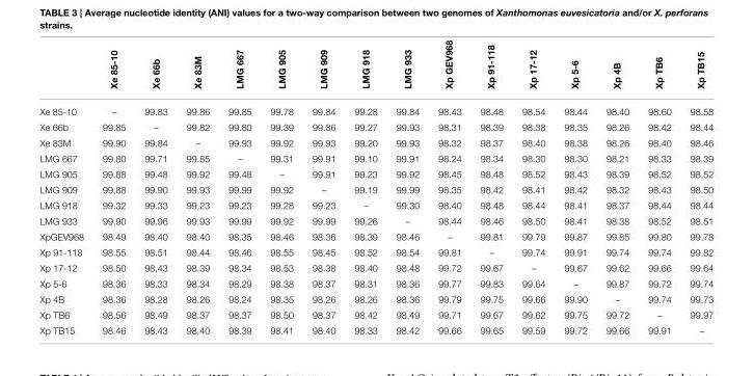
<table><thead><tr><td></td><td>Xe 85-10</td><td>Xe 66b</td><td>Xe 83M</td><td>LMG 667</td><td>LMG 905</td><td>LMG 909</td><td>LMG 918</td><td>LMG 933</td><td>Xp GEV968</td><td>Xp 91-118</td><td>Xp 17-12</td><td>Xp 5-6</td><td>Xp 4B</td><td>Xp TB6</td><td>Xp TB15</td></tr></thead><tbody><tr><td>Xe 85-10</td><td>–</td><td>99.83</td><td>99.86</td><td>99.85</td><td>99.78</td><td>99.84</td><td>99.28</td><td>99.84</td><td>98.43</td><td>98.48</td><td>98.54</td><td>98.44</td><td>98.40</td><td>98.60</td><td>98.58</td></tr><tr><td>Xe 66b</td><td>99.85</td><td>–</td><td>99.82</td><td>99.80</td><td>99.39</td><td>99.86</td><td>99.27</td><td>99.93</td><td>98.31</td><td>98.39</td><td>98.38</td><td>98.35</td><td>98.26</td><td>98.42</td><td>98.44</td></tr><tr><td>Xe 83M</td><td>99.90</td><td>99.84</td><td>–</td><td>99.93</td><td>99.92</td><td>99.93</td><td>99.20</td><td>99.93</td><td>98.32</td><td>98.37</td><td>98.40</td><td>98.38</td><td>98.26</td><td>98.40</td><td>98.46</td></tr><tr><td>LMG 667</td><td>99.80</td><td>99.71</td><td>99.85</td><td>–</td><td>99.31</td><td>99.91</td><td>99.10</td><td>99.91</td><td>98.24</td><td>98.34</td><td>98.30</td><td>98.30</td><td>98.21</td><td>98.33</td><td>98.39</td></tr><tr><td>LMG 905</td><td>99.88</td><td>99.48</td><td>99.92</td><td>99.48</td><td>–</td><td>99.91</td><td>99.23</td><td>99.92</td><td>98.45</td><td>98.48</td><td>98.52</td><td>98.43</td><td>98.39</td><td>98.52</td><td>98.52</td></tr><tr><td>LMG 909</td><td>99.88</td><td>99.90</td><td>99.93</td><td>99.99</td><td>99.92</td><td>–</td><td>99.19</td><td>99.99</td><td>98.35</td><td>98.42</td><td>98.41</td><td>98.42</td><td>98.32</td><td>98.43</td><td>98.50</td></tr><tr><td>LMG 918</td><td>99.32</td><td>99.33</td><td>99.23</td><td>99.23</td><td>99.28</td><td>99.23</td><td>–</td><td>99.30</td><td>98.40</td><td>98.48</td><td>98.44</td><td>98.41</td><td>98.37</td><td>98.44</td><td>98.44</td></tr><tr><td>LMG 933</td><td>99.90</td><td>99.96</td><td>99.93</td><td>99.99</td><td>99.92</td><td>99.99</td><td>99.26</td><td>–</td><td>98.44</td><td>98.46</td><td>98.50</td><td>98.41</td><td>98.38</td><td>98.52</td><td>98.51</td></tr><tr><td>XpGEV968</td><td>98.49</td><td>98.40</td><td>98.40</td><td>98.35</td><td>98.46</td><td>98.36</td><td>98.39</td><td>98.46</td><td>–</td><td>99.81</td><td>99.79</td><td>99.87</td><td>99.85</td><td>99.80</td><td>99.78</td></tr><tr><td>Xp 91-118</td><td>98.55</td><td>98.51</td><td>98.44</td><td>98.46</td><td>98.55</td><td>98.45</td><td>98.52</td><td>98.54</td><td>99.81</td><td>–</td><td>99.74</td><td>99.91</td><td>99.74</td><td>99.74</td><td>99.82</td></tr><tr><td>Xp 17-12</td><td>98.50</td><td>98.43</td><td>98.39</td><td>98.34</td><td>98.53</td><td>98.38</td><td>98.40</td><td>98.48</td><td>99.72</td><td>99.67</td><td>–</td><td>99.67</td><td>99.62</td><td>99.66</td><td>99.64</td></tr><tr><td>Xp 5-6</td><td>98.36</td><td>98.33</td><td>98.34</td><td>98.29</td><td>98.38</td><td>98.37</td><td>98.31</td><td>98.36</td><td>99.77</td><td>99.83</td><td>99.64</td><td>–</td><td>99.87</td><td>99.72</td><td>99.74</td></tr><tr><td>Xp 4B</td><td>98.36</td><td>98.28</td><td>98.26</td><td>98.24</td><td>98.35</td><td>98.26</td><td>98.26</td><td>98.36</td><td>99.79</td><td>99.75</td><td>99.66</td><td>99.90</td><td>–</td><td>99.74</td><td>99.73</td></tr><tr><td>Xp TB6</td><td>98.56</td><td>98.49</td><td>98.37</td><td>98.37</td><td>98.50</td><td>98.37</td><td>98.42</td><td>98.49</td><td>99.71</td><td>99.67</td><td>99.62</td><td>99.75</td><td>99.72</td><td>–</td><td>99.97</td></tr><tr><td>Xp TB15</td><td>98.46</td><td>98.43</td><td>98.40</td><td>98.39</td><td>98.41</td><td>98.40</td><td>98.33</td><td>98.42</td><td>99.66</td><td>99.65</td><td>99.59</td><td>99.72</td><td>99.66</td><td>99.91</td><td>–</td></tr></tbody></table>